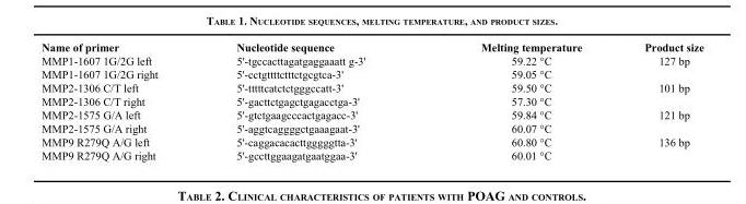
<table><thead><tr><td>Name of primer</td><td>Nucleotide sequence</td><td>Melting temperature</td><td>Product size</td></tr></thead><tbody><tr><td>MMP1-1607 1G/2G left</td><td>5&#x27;-tgccacttagatgaggaaatt g-3&#x27;</td><td>59.22 °C</td><td>127 bp</td></tr><tr><td>MMP1-1607 1G/2G right</td><td>5&#x27;-cctgttttctttctgcgtca-3&#x27;</td><td>59.05 °C</td><td></td></tr><tr><td>MMP2-1306 C/T left</td><td>5&#x27;-tttttcatctctgggccatt-3&#x27;</td><td>59.50 °C</td><td>101 bp</td></tr><tr><td>MMP2-1306 C/T right</td><td>5&#x27;-gacttctgagctgagacctga-3&#x27;</td><td>57.30 °C</td><td></td></tr><tr><td>MMP2-1575 G/A left</td><td>5&#x27;-gtctgaagcccactgagacc-3&#x27;</td><td>59.84 °C</td><td>121 bp</td></tr><tr><td>MMP2-1575 G/A right</td><td>5&#x27;-aggtcaggggctgaaagaat-3&#x27;</td><td>60.07 °C</td><td></td></tr><tr><td>MMP9 R279Q A/G left</td><td>5&#x27;-caggacacacttgggggtta-3&#x27;</td><td>60.80 °C</td><td>136 bp</td></tr><tr><td>MMP9 R279Q A/G right</td><td>5&#x27;-gccttggaagatgaatggaa-3&#x27;</td><td>60.01 °C</td><td></td></tr></tbody></table>